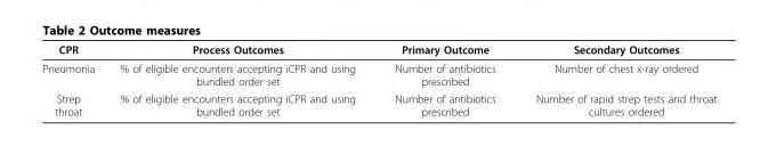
<table><thead><tr><td>CPR</td><td>Process Outcomes</td><td>Primary Outcome</td><td>Secondary Outcomes</td></tr></thead><tbody><tr><td>Pneumonia</td><td>% of eligible encounters accepting iCPR and using bundled order set</td><td>Number of antibiotics prescribed</td><td>Number of chest x-ray ordered</td></tr><tr><td>Strep throat</td><td>% of eligible encounters accepting iCPR and using bundled order set</td><td>Number of antibiotics prescribed</td><td>Number of rapid strep tests and throat cultures ordered</td></tr></tbody></table>